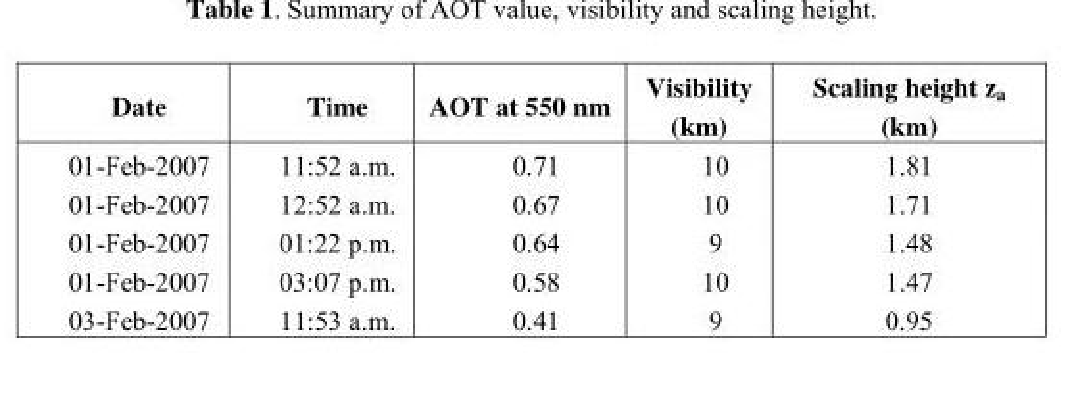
<table><thead><tr><td>Date</td><td>Time</td><td>AOT at 550 nm</td><td>Visibility (km)</td><td>Scaling height z<sub>a</sub> (km)</td></tr></thead><tbody><tr><td>01-Feb-2007</td><td>11:52 a.m.</td><td>0.71</td><td>10</td><td>1.81</td></tr><tr><td>01-Feb-2007</td><td>12:52 a.m.</td><td>0.67</td><td>10</td><td>1.71</td></tr><tr><td>01-Feb-2007</td><td>01:22 p.m.</td><td>0.64</td><td>9</td><td>1.48</td></tr><tr><td>01-Feb-2007</td><td>03:07 p.m.</td><td>0.58</td><td>10</td><td>1.47</td></tr><tr><td>03-Feb-2007</td><td>11:53 a.m.</td><td>0.41</td><td>9</td><td>0.95</td></tr></tbody></table>